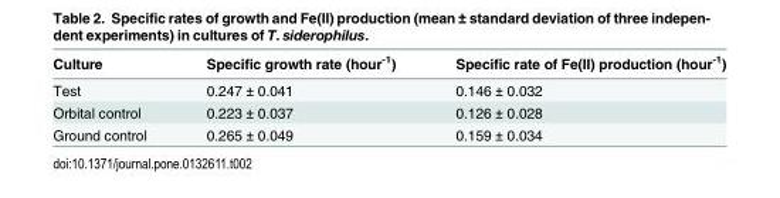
<table><thead><tr><td>Culture</td><td>Specific growth rate (hour<sup>-1</sup>)</td><td>Specific rate of Fe(II) production (hour<sup>-1</sup>)</td></tr></thead><tbody><tr><td>Test</td><td>0.247 ± 0.041</td><td>0.146 ± 0.032</td></tr><tr><td>Orbital control</td><td>0.223 ± 0.037</td><td>0.126 ± 0.028</td></tr><tr><td>Ground control</td><td>0.265 ± 0.049</td><td>0.159 ± 0.034</td></tr></tbody></table>